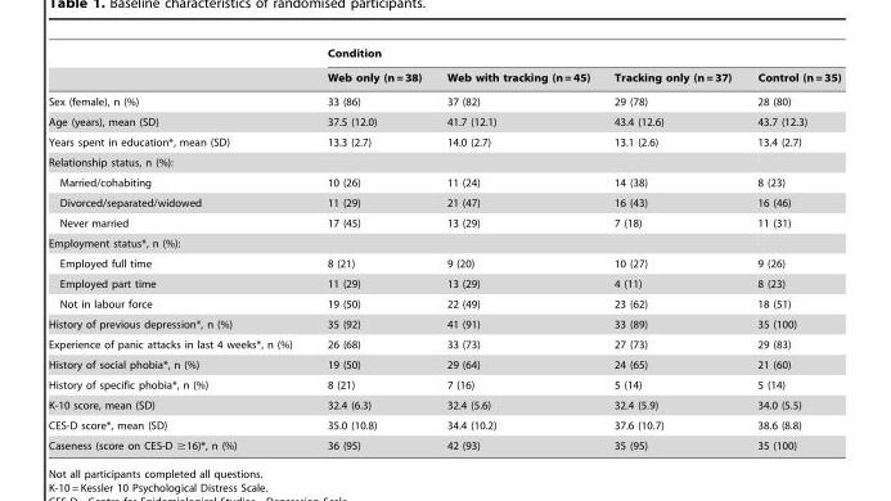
<table><thead><tr><td rowspan="2"></td><td colspan="4">Condition</td></tr><tr><td>Web only (n = 38)</td><td>Web with tracking (n = 45)</td><td>Tracking only (n = 37)</td><td>Control (n = 35)</td></tr></thead><tbody><tr><td>Sex (female), n (%)</td><td>33 (86)</td><td>37 (82)</td><td>29 (78)</td><td>28 (80)</td></tr><tr><td>Age (years), mean (SD)</td><td>37.5 (12.0)</td><td>41.7 (12.1)</td><td>43.4 (12.6)</td><td>43.7 (12.3)</td></tr><tr><td>Years spent in education*, mean (SD)</td><td>13.3 (2.7)</td><td>14.0 (2.7)</td><td>13.1 (2.6)</td><td>13.4 (2.7)</td></tr><tr><td colspan="5">Relationship status, n (%):</td></tr><tr><td>Married/cohabiting</td><td>10 (26)</td><td>11 (24)</td><td>14 (38)</td><td>8 (23)</td></tr><tr><td>Divorced/separated/widowed</td><td>11 (29)</td><td>21 (47)</td><td>16 (43)</td><td>16 (46)</td></tr><tr><td>Never married</td><td>17 (45)</td><td>13 (29)</td><td>7 (18)</td><td>11 (31)</td></tr><tr><td colspan="5">Employment status*, n (%):</td></tr><tr><td>Employed full time</td><td>8 (21)</td><td>9 (20)</td><td>10 (27)</td><td>9 (26)</td></tr><tr><td>Employed part time</td><td>11 (29)</td><td>13 (29)</td><td>4 (11)</td><td>8 (23)</td></tr><tr><td>Not in labour force</td><td>19 (50)</td><td>22 (49)</td><td>23 (62)</td><td>18 (51)</td></tr><tr><td>History of previous depression*, n (%)</td><td>35 (92)</td><td>41 (91)</td><td>33 (89)</td><td>35 (100)</td></tr><tr><td>Experience of panic attacks in last 4 weeks*, n (%)</td><td>26 (68)</td><td>33 (73)</td><td>27 (73)</td><td>29 (83)</td></tr><tr><td>History of social phobia*, n (%)</td><td>19 (50)</td><td>29 (64)</td><td>24 (65)</td><td>21 (60)</td></tr><tr><td>History of specific phobia*, n (%)</td><td>8 (21)</td><td>7 (16)</td><td>5 (14)</td><td>5 (14)</td></tr><tr><td>K-10 score, mean (SD)</td><td>32.4 (6.3)</td><td>32.4 (5.6)</td><td>32.4 (5.9)</td><td>34.0 (5.5)</td></tr><tr><td>CES-D score*, mean (SD)</td><td>35.0 (10.8)</td><td>34.4 (10.2)</td><td>37.6 (10.7)</td><td>38.6 (8.8)</td></tr><tr><td>Caseness (score on CES-D ≥16)*, n (%)</td><td>36 (95)</td><td>42 (93)</td><td>35 (95)</td><td>35 (100)</td></tr></tbody></table>